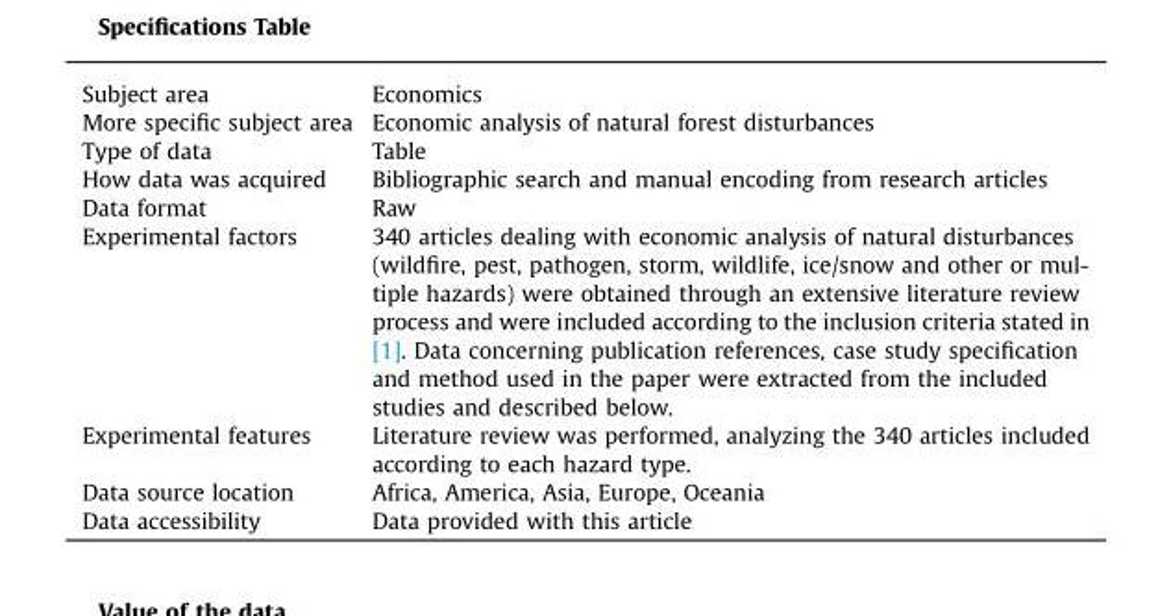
<table><tbody><tr><td>Subject area</td><td>Economics</td></tr><tr><td>More specific subject area</td><td>Economic analysis of natural forest disturbances</td></tr><tr><td>Type of data</td><td>Table</td></tr><tr><td>How data was acquired</td><td>Bibliographic search and manual encoding from research articles</td></tr><tr><td>Data format</td><td>Raw</td></tr><tr><td>Experimental factors</td><td>340 articles dealing with economic analysis of natural disturbances (wildfire, pest, pathogen, storm, wildlife, ice/snow and other or mul- tiple hazards) were obtained through an extensive literature review process and were included according to the inclusion criteria stated in [1]. Data concerning publication references, case study specification and method used in the paper were extracted from the included studies and described below.</td></tr><tr><td>Experimental features</td><td>Literature review was performed, analyzing the 340 articles included according to each hazard type.</td></tr><tr><td>Data source location</td><td>Africa, America, Asia, Europe, Oceania</td></tr><tr><td>Data accessibility</td><td>Data provided with this article</td></tr></tbody></table>